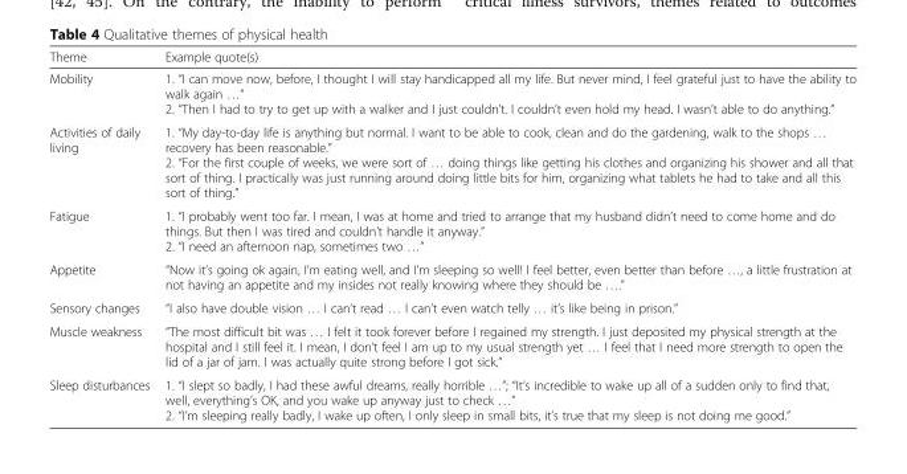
<table><thead><tr><td>Theme</td><td>Example quote(s)</td></tr></thead><tbody><tr><td>Mobility</td><td>1. “I can move now, before, I thought I will stay handicapped all my life. But never mind, I feel grateful just to have the ability to walk again …” 2. “Then I had to try to get up with a walker and I just couldn’t. I couldn’t even hold my head. I wasn’t able to do anything.”</td></tr><tr><td>Activities of daily living</td><td>1. “My day-to-day life is anything but normal. I want to be able to cook, clean and do the gardening, walk to the shops … recovery has been reasonable.” 2. “For the first couple of weeks, we were sort of … doing things like getting his clothes and organizing his shower and all that sort of thing. I practically was just running around doing little bits for him, organizing what tablets he had to take and all this sort of thing.”</td></tr><tr><td>Fatigue</td><td>1. “I probably went too far. I mean, I was at home and tried to arrange that my husband didn’t need to come home and do things. But then I was tired and couldn’t handle it anyway.” 2. “I need an afternoon nap, sometimes two …”</td></tr><tr><td>Appetite</td><td>“Now it’s going ok again, I’m eating well, and I’m sleeping so well! I feel better, even better than before …, a little frustration at not having an appetite and my insides not really knowing where they should be ….”</td></tr><tr><td>Sensory changes</td><td>“I also have double vision … I can’t read … I can’t even watch telly … it’s like being in prison.”</td></tr><tr><td>Muscle weakness</td><td>“The most difficult bit was … I felt it took forever before I regained my strength. I just deposited my physical strength at the hospital and I still feel it. I mean, I don’t feel I am up to my usual strength yet … I feel that I need more strength to open the lid of a jar of jam. I was actually quite strong before I got sick.”</td></tr><tr><td>Sleep disturbances</td><td>1. “I slept so badly, I had these awful dreams, really horrible …”; “It’s incredible to wake up all of a sudden only to find that, well, everything’s OK, and you wake up anyway just to check …” 2. “I’m sleeping really badly, I wake up often, I only sleep in small bits, it’s true that my sleep is not doing me good.”</td></tr></tbody></table>